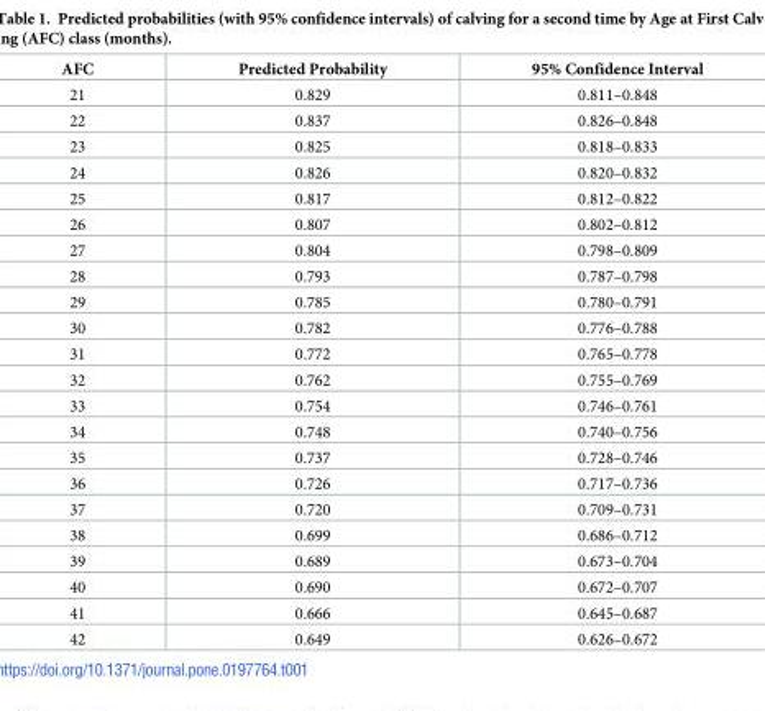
<table><thead><tr><td>AFC</td><td>Predicted Probability</td><td>95% Confidence Interval</td></tr></thead><tbody><tr><td>21</td><td>0.829</td><td>0.811–0.848</td></tr><tr><td>22</td><td>0.837</td><td>0.826–0.848</td></tr><tr><td>23</td><td>0.825</td><td>0.818–0.833</td></tr><tr><td>24</td><td>0.826</td><td>0.820–0.832</td></tr><tr><td>25</td><td>0.817</td><td>0.812–0.822</td></tr><tr><td>26</td><td>0.807</td><td>0.802–0.812</td></tr><tr><td>27</td><td>0.804</td><td>0.798–0.809</td></tr><tr><td>28</td><td>0.793</td><td>0.787–0.798</td></tr><tr><td>29</td><td>0.785</td><td>0.780–0.791</td></tr><tr><td>30</td><td>0.782</td><td>0.776–0.788</td></tr><tr><td>31</td><td>0.772</td><td>0.765–0.778</td></tr><tr><td>32</td><td>0.762</td><td>0.755–0.769</td></tr><tr><td>33</td><td>0.754</td><td>0.746–0.761</td></tr><tr><td>34</td><td>0.748</td><td>0.740–0.756</td></tr><tr><td>35</td><td>0.737</td><td>0.728–0.746</td></tr><tr><td>36</td><td>0.726</td><td>0.717–0.736</td></tr><tr><td>37</td><td>0.720</td><td>0.709–0.731</td></tr><tr><td>38</td><td>0.699</td><td>0.686–0.712</td></tr><tr><td>39</td><td>0.689</td><td>0.673–0.704</td></tr><tr><td>40</td><td>0.690</td><td>0.672–0.707</td></tr><tr><td>41</td><td>0.666</td><td>0.645–0.687</td></tr><tr><td>42</td><td>0.649</td><td>0.626–0.672</td></tr></tbody></table>